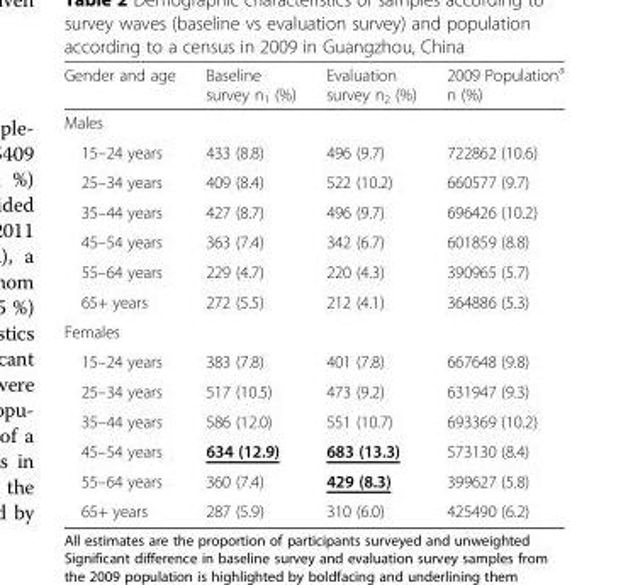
<table><thead><tr><td>Gender and age</td><td>Baseline survey n<sub>1</sub> (%)</td><td>Evaluation survey n<sub>2</sub> (%)</td><td>2009 Population<sup>a</sup> n (%)</td></tr></thead><tbody><tr><td colspan="4">Males</td></tr><tr><td>15–24 years</td><td>433 (8.8)</td><td>496 (9.7)</td><td>722862 (10.6)</td></tr><tr><td>25–34 years</td><td>409 (8.4)</td><td>522 (10.2)</td><td>660577 (9.7)</td></tr><tr><td>35–44 years</td><td>427 (8.7)</td><td>496 (9.7)</td><td>696426 (10.2)</td></tr><tr><td>45–54 years</td><td>363 (7.4)</td><td>342 (6.7)</td><td>601859 (8.8)</td></tr><tr><td>55–64 years</td><td>229 (4.7)</td><td>220 (4.3)</td><td>390965 (5.7)</td></tr><tr><td>65+ years</td><td>272 (5.5)</td><td>212 (4.1)</td><td>364886 (5.3)</td></tr><tr><td colspan="4">Females</td></tr><tr><td>15–24 years</td><td>383 (7.8)</td><td>401 (7.8)</td><td>667648 (9.8)</td></tr><tr><td>25–34 years</td><td>517 (10.5)</td><td>473 (9.2)</td><td>631947 (9.3)</td></tr><tr><td>35–44 years</td><td>586 (12.0)</td><td>551 (10.7)</td><td>693369 (10.2)</td></tr><tr><td>45–54 years</td><td>634 (12.9)</td><td>683 (13.3)</td><td>573130 (8.4)</td></tr><tr><td>55–64 years</td><td>360 (7.4)</td><td>429 (8.3)</td><td>399627 (5.8)</td></tr><tr><td>65+ years</td><td>287 (5.9)</td><td>310 (6.0)</td><td>425490 (6.2)</td></tr></tbody></table>